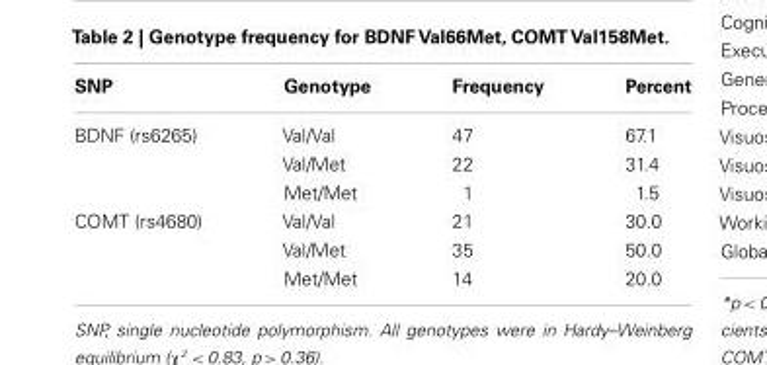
<table><thead><tr><td>SNP</td><td>Genotype</td><td>Frequency</td><td>Percent</td></tr></thead><tbody><tr><td rowspan="3">BDNF (rs6265)</td><td>Val/Val</td><td>47</td><td>67.1</td></tr><tr><td>Val/Met</td><td>22</td><td>31.4</td></tr><tr><td>Met/Met</td><td>1</td><td>1.5</td></tr><tr><td rowspan="3">COMT (rs4680)</td><td>Val/Val</td><td>21</td><td>30.0</td></tr><tr><td>Val/Met</td><td>35</td><td>50.0</td></tr><tr><td>Met/Met</td><td>14</td><td>20.0</td></tr></tbody></table>